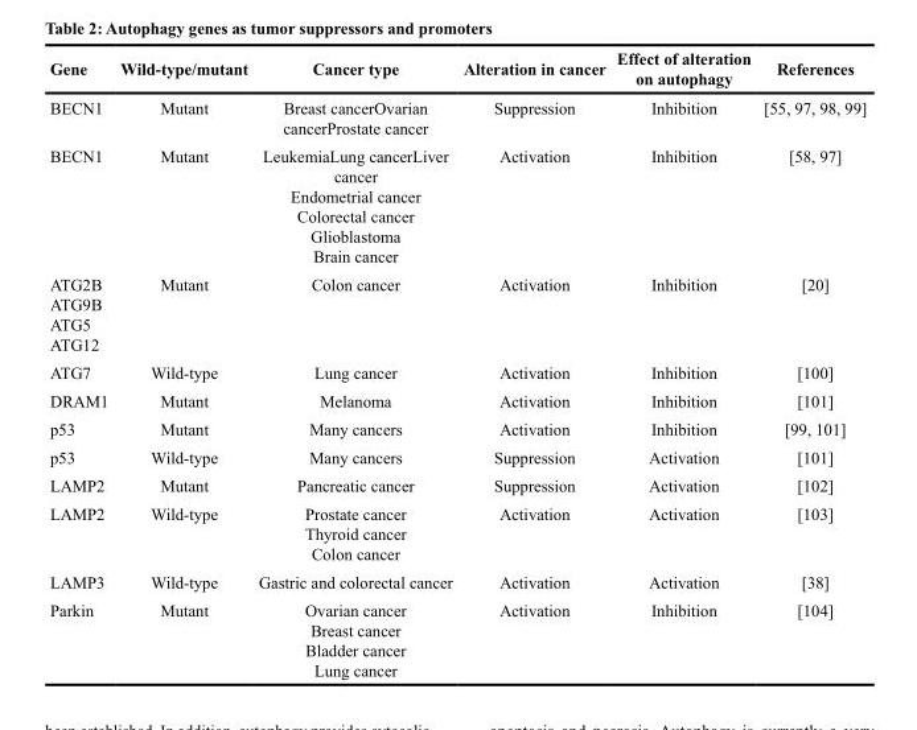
<table><thead><tr><td>Gene</td><td>Wild-type/mutant</td><td>Cancer type</td><td>Alteration in cancer</td><td>Effect of alteration on autophagy</td><td>References</td></tr></thead><tbody><tr><td>BECN1</td><td>Mutant</td><td>Breast cancerOvarian cancerProstate cancer</td><td>Suppression</td><td>Inhibition</td><td>[55, 97, 98, 99]</td></tr><tr><td>BECN1</td><td>Mutant</td><td>LeukemiaLung cancerLiver cancer Endometrial cancer Colorectal cancer Glioblastoma Brain cancer</td><td>Activation</td><td>Inhibition</td><td>[58, 97]</td></tr><tr><td>ATG2B ATG9B ATG5 ATG12</td><td>Mutant</td><td>Colon cancer</td><td>Activation</td><td>Inhibition</td><td>[20]</td></tr><tr><td>ATG7</td><td>Wild-type</td><td>Lung cancer</td><td>Activation</td><td>Inhibition</td><td>[100]</td></tr><tr><td>DRAM1</td><td>Mutant</td><td>Melanoma</td><td>Activation</td><td>Inhibition</td><td>[101]</td></tr><tr><td>p53</td><td>Mutant</td><td>Many cancers</td><td>Activation</td><td>Inhibition</td><td>[99, 101]</td></tr><tr><td>p53</td><td>Wild-type</td><td>Many cancers</td><td>Suppression</td><td>Activation</td><td>[101]</td></tr><tr><td>LAMP2</td><td>Mutant</td><td>Pancreatic cancer</td><td>Suppression</td><td>Activation</td><td>[102]</td></tr><tr><td>LAMP2</td><td>Wild-type</td><td>Prostate cancer Thyroid cancer Colon cancer</td><td>Activation</td><td>Activation</td><td>[103]</td></tr><tr><td>LAMP3</td><td>Wild-type</td><td>Gastric and colorectal cancer</td><td>Activation</td><td>Activation</td><td>[38]</td></tr><tr><td>Parkin</td><td>Mutant</td><td>Ovarian cancer Breast cancer Bladder cancer Lung cancer</td><td>Activation</td><td>Inhibition</td><td>[104]</td></tr></tbody></table>